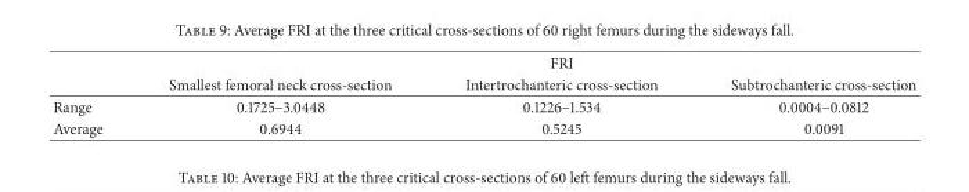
<table><thead><tr><td rowspan="2"></td><td rowspan="2">Smallest femoral neck cross-section</td><td rowspan="2">FRI Intertrochanteric cross-section</td><td rowspan="2">Subtrochanteric cross-section</td></tr><tr></tr></thead><tbody><tr><td>Range</td><td>0.1725–3.0448</td><td>0.1226–1.534</td><td>0.0004–0.0812</td></tr><tr><td>Average</td><td>0.6944</td><td>0.5245</td><td>0.0091</td></tr></tbody></table>